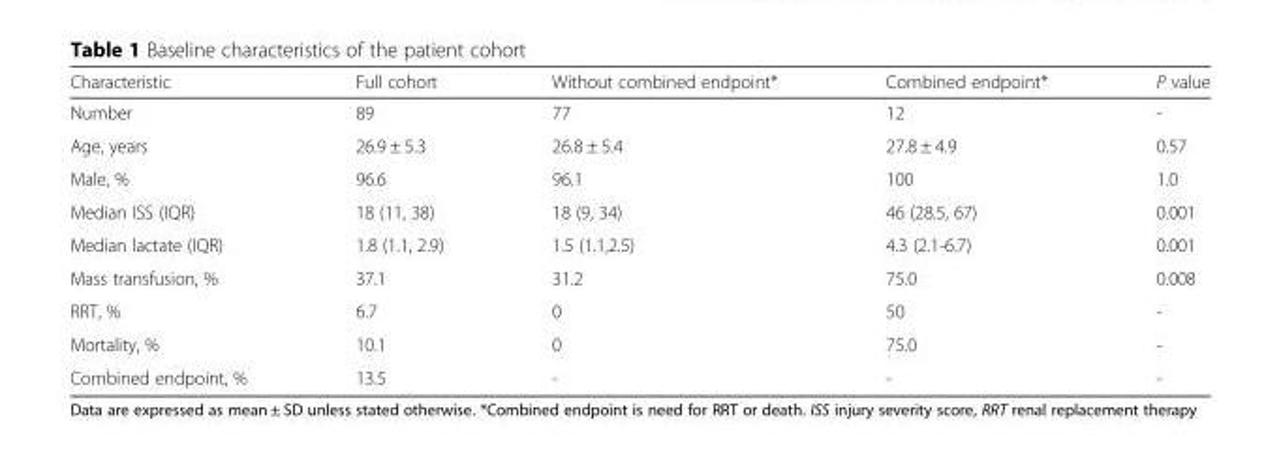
<table><thead><tr><td>Characteristic</td><td>Full cohort</td><td>Without combined endpoint*</td><td>Combined endpoint*</td><td>P value</td></tr></thead><tbody><tr><td>Number</td><td>89</td><td>77</td><td>12</td><td>-</td></tr><tr><td>Age, years</td><td>26.9 ± 5.3</td><td>26.8 ± 5.4</td><td>27.8 ± 4.9</td><td>0.57</td></tr><tr><td>Male, %</td><td>96.6</td><td>96.1</td><td>100</td><td>1.0</td></tr><tr><td>Median ISS (IQR)</td><td>18 (11, 38)</td><td>18 (9, 34)</td><td>46 (28.5, 67)</td><td>0.001</td></tr><tr><td>Median lactate (IQR)</td><td>1.8 (1.1, 2.9)</td><td>1.5 (1.1,2.5)</td><td>4.3 (2.1-6.7)</td><td>0.001</td></tr><tr><td>Mass transfusion, %</td><td>37.1</td><td>31.2</td><td>75.0</td><td>0.008</td></tr><tr><td>RRT, %</td><td>6.7</td><td>0</td><td>50</td><td>-</td></tr><tr><td>Mortality, %</td><td>10.1</td><td>0</td><td>75.0</td><td>-</td></tr><tr><td>Combined endpoint, %</td><td>13.5</td><td>-</td><td>-</td><td>-</td></tr></tbody></table>